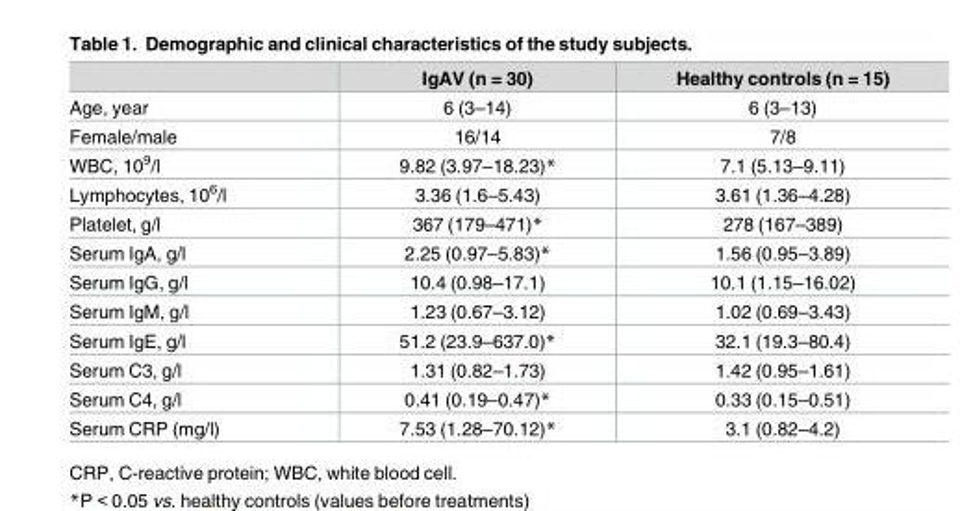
<table><thead><tr><td></td><td>IgAV (n = 30)</td><td>Healthy controls (n = 15)</td></tr></thead><tbody><tr><td>Age, year</td><td>6 (3–14)</td><td>6 (3–13)</td></tr><tr><td>Female/male</td><td>16/14</td><td>7/8</td></tr><tr><td>WBC, 10<sup>9</sup>/l</td><td>9.82 (3.97–18.23)*</td><td>7.1 (5.13–9.11)</td></tr><tr><td>Lymphocytes, 10<sup>6</sup>/l</td><td>3.36 (1.6–5.43)</td><td>3.61 (1.36–4.28)</td></tr><tr><td>Platelet, g/l</td><td>367 (179–471)*</td><td>278 (167–389)</td></tr><tr><td>Serum IgA, g/l</td><td>2.25 (0.97–5.83)*</td><td>1.56 (0.95–3.89)</td></tr><tr><td>Serum IgG, g/l</td><td>10.4 (0.98–17.1)</td><td>10.1 (1.15–16.02)</td></tr><tr><td>Serum IgM, g/l</td><td>1.23 (0.67–3.12)</td><td>1.02 (0.69–3.43)</td></tr><tr><td>Serum IgE, g/l</td><td>51.2 (23.9–637.0)*</td><td>32.1 (19.3–80.4)</td></tr><tr><td>Serum C3, g/l</td><td>1.31 (0.82–1.73)</td><td>1.42 (0.95–1.61)</td></tr><tr><td>Serum C4, g/l</td><td>0.41 (0.19–0.47)*</td><td>0.33 (0.15–0.51)</td></tr><tr><td>Serum CRP (mg/l)</td><td>7.53 (1.28–70.12)*</td><td>3.1 (0.82–4.2)</td></tr></tbody></table>